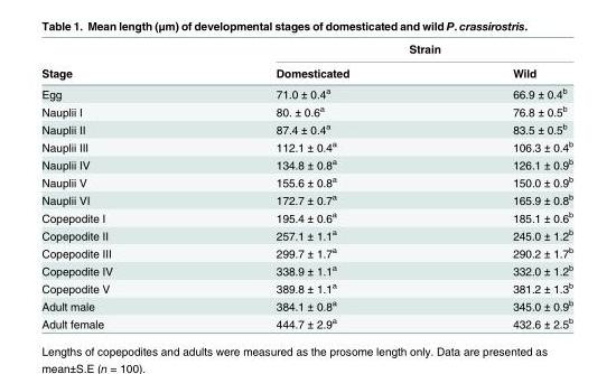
<table><thead><tr><td rowspan="2">Stage</td><td colspan="2">Strain</td></tr><tr><td>Domesticated</td><td>Wild</td></tr></thead><tbody><tr><td>Egg</td><td>71.0 ± 0.4<sup>a</sup></td><td>66.9 ± 0.4<sup>b</sup></td></tr><tr><td>Nauplii I</td><td>80. ± 0.6<sup>a</sup></td><td>76.8 ± 0.5<sup>b</sup></td></tr><tr><td>Nauplii II</td><td>87.4 ± 0.4<sup>a</sup></td><td>83.5 ± 0.5<sup>b</sup></td></tr><tr><td>Nauplii III</td><td>112.1 ± 0.4<sup>a</sup></td><td>106.3 ± 0.4<sup>b</sup></td></tr><tr><td>Nauplii IV</td><td>134.8 ± 0.8<sup>a</sup></td><td>126.1 ± 0.9<sup>b</sup></td></tr><tr><td>Nauplii V</td><td>155.6 ± 0.8<sup>a</sup></td><td>150.0 ± 0.9<sup>b</sup></td></tr><tr><td>Nauplii VI</td><td>172.7 ± 0.7<sup>a</sup></td><td>165.9 ± 0.8<sup>b</sup></td></tr><tr><td>Copepodite I</td><td>195.4 ± 0.6<sup>a</sup></td><td>185.1 ± 0.6<sup>b</sup></td></tr><tr><td>Copepodite II</td><td>257.1 ± 1.1<sup>a</sup></td><td>245.0 ± 1.2<sup>b</sup></td></tr><tr><td>Copepodite III</td><td>299.7 ± 1.7<sup>a</sup></td><td>290.2 ± 1.7<sup>b</sup></td></tr><tr><td>Copepodite IV</td><td>338.9 ± 1.1<sup>a</sup></td><td>332.0 ± 1.2<sup>b</sup></td></tr><tr><td>Copepodite V</td><td>389.8 ± 1.1<sup>a</sup></td><td>381.2 ± 1.3<sup>b</sup></td></tr><tr><td>Adult male</td><td>384.1 ± 0.8<sup>a</sup></td><td>345.0 ± 0.9<sup>b</sup></td></tr><tr><td>Adult female</td><td>444.7 ± 2.9<sup>a</sup></td><td>432.6 ± 2.5<sup>b</sup></td></tr></tbody></table>